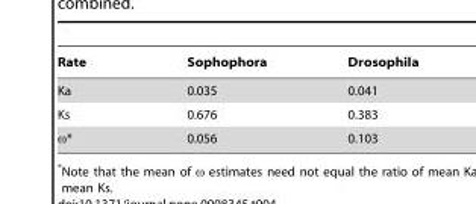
<table><thead><tr><td>Rate</td><td>Sophophora</td><td>Drosophila</td></tr></thead><tbody><tr><td>Ka</td><td>0.035</td><td>0.041</td></tr><tr><td>Ks</td><td>0.676</td><td>0.383</td></tr><tr><td>ω*</td><td>0.056</td><td>0.103</td></tr></tbody></table>